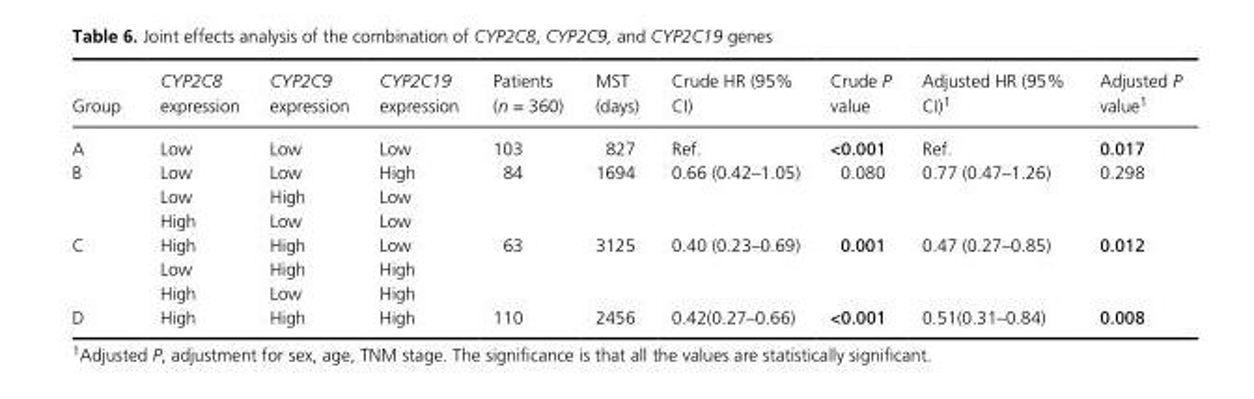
<table><thead><tr><td>Group</td><td>CYP2C8 expression</td><td>CYP2C9 expression</td><td>CYP2C19 expression</td><td>Patients (n = 360)</td><td>MST (days)</td><td>Crude HR (95% CI)</td><td>Crude P value</td><td>Adjusted HR (95% CI)1</td><td>Adjusted P value1</td></tr></thead><tbody><tr><td>A</td><td>Low</td><td>Low</td><td>Low</td><td>103</td><td>827</td><td>Ref.</td><td>&lt;0.001</td><td>Ref.</td><td>0.017</td></tr><tr><td rowspan="3">B</td><td>Low</td><td>Low</td><td>High</td><td>84</td><td>1694</td><td>0.66 (0.42–1.05)</td><td>0.080</td><td>0.77 (0.47–1.26)</td><td>0.298</td></tr><tr><td>Low</td><td>High</td><td>Low</td><td></td><td></td><td></td><td></td><td></td><td></td></tr><tr><td>High</td><td>Low</td><td>Low</td><td></td><td></td><td></td><td></td><td></td><td></td></tr><tr><td rowspan="3">C</td><td>High</td><td>High</td><td>Low</td><td>63</td><td>3125</td><td>0.40 (0.23–0.69)</td><td>0.001</td><td>0.47 (0.27–0.85)</td><td>0.012</td></tr><tr><td>Low</td><td>High</td><td>High</td><td></td><td></td><td></td><td></td><td></td><td></td></tr><tr><td>High</td><td>Low</td><td>High</td><td></td><td></td><td></td><td></td><td></td><td></td></tr><tr><td>D</td><td>High</td><td>High</td><td>High</td><td>110</td><td>2456</td><td>0.42(0.27–0.66)</td><td>&lt;0.001</td><td>0.51(0.31–0.84)</td><td>0.008</td></tr></tbody></table>